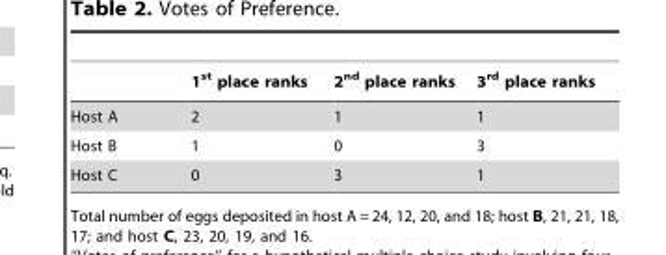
<table><thead><tr><td></td><td>1<sup>st</sup> place ranks</td><td>2<sup>nd</sup> place ranks</td><td>3<sup>rd</sup> place ranks</td></tr></thead><tbody><tr><td>Host A</td><td>2</td><td>1</td><td>1</td></tr><tr><td>Host B</td><td>1</td><td>0</td><td>3</td></tr><tr><td>Host C</td><td>0</td><td>3</td><td>1</td></tr></tbody></table>